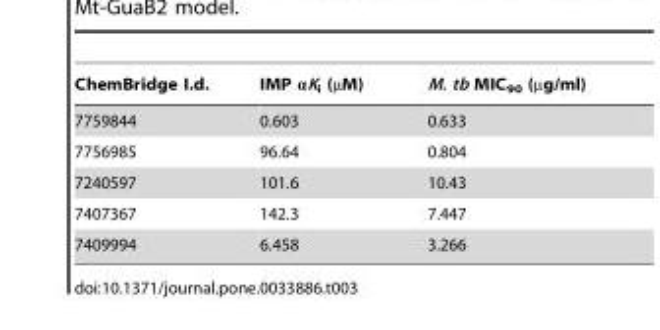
<table><thead><tr><td>ChemBridge I.d.</td><td>IMP αK<sub>i</sub> (µM)</td><td>M. tb MIC<sub>90</sub> (µg/ml)</td></tr></thead><tbody><tr><td>7759844</td><td>0.603</td><td>0.633</td></tr><tr><td>7756985</td><td>96.64</td><td>0.804</td></tr><tr><td>7240597</td><td>101.6</td><td>10.43</td></tr><tr><td>7407367</td><td>142.3</td><td>7.447</td></tr><tr><td>7409994</td><td>6.458</td><td>3.266</td></tr></tbody></table>